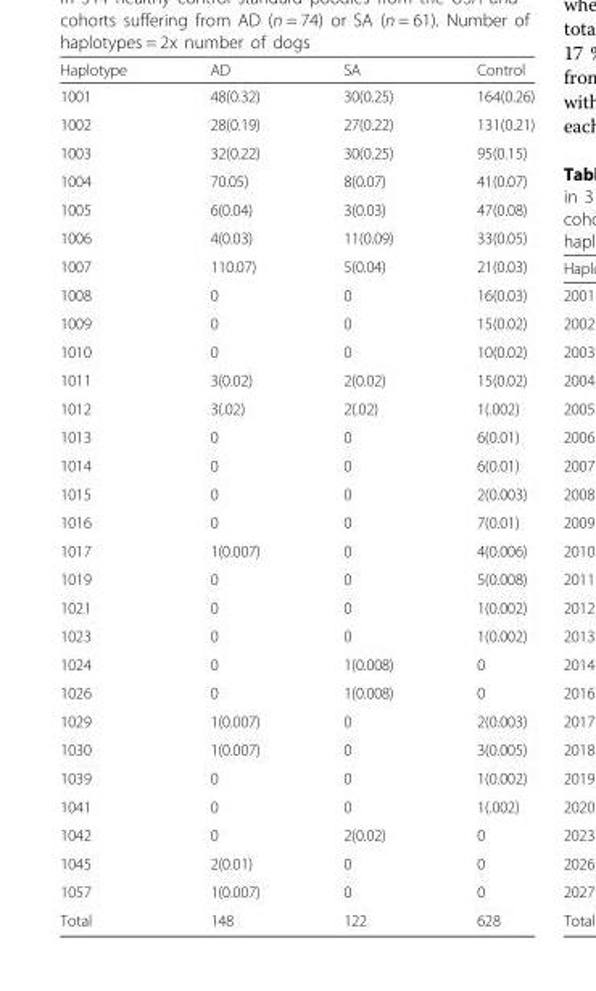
<table><thead><tr><td>Haplotype</td><td>AD</td><td>SA</td><td>Control</td></tr></thead><tbody><tr><td>1001</td><td>48(0.32)</td><td>30(0.25)</td><td>164(0.26)</td></tr><tr><td>1002</td><td>28(0.19)</td><td>27(0.22)</td><td>131(0.21)</td></tr><tr><td>1003</td><td>32(0.22)</td><td>30(0.25)</td><td>95(0.15)</td></tr><tr><td>1004</td><td>70.05)</td><td>8(0.07)</td><td>41(0.07)</td></tr><tr><td>1005</td><td>6(0.04)</td><td>3(0.03)</td><td>47(0.08)</td></tr><tr><td>1006</td><td>4(0.03)</td><td>11(0.09)</td><td>33(0.05)</td></tr><tr><td>1007</td><td>110.07)</td><td>5(0.04)</td><td>21(0.03)</td></tr><tr><td>1008</td><td>0</td><td>0</td><td>16(0.03)</td></tr><tr><td>1009</td><td>0</td><td>0</td><td>15(0.02)</td></tr><tr><td>1010</td><td>0</td><td>0</td><td>10(0.02)</td></tr><tr><td>1011</td><td>3(0.02)</td><td>2(0.02)</td><td>15(0.02)</td></tr><tr><td>1012</td><td>3(.02)</td><td>2(.02)</td><td>1(.002)</td></tr><tr><td>1013</td><td>0</td><td>0</td><td>6(0.01)</td></tr><tr><td>1014</td><td>0</td><td>0</td><td>6(0.01)</td></tr><tr><td>1015</td><td>0</td><td>0</td><td>2(0.003)</td></tr><tr><td>1016</td><td>0</td><td>0</td><td>7(0.01)</td></tr><tr><td>1017</td><td>1(0.007)</td><td>0</td><td>4(0.006)</td></tr><tr><td>1019</td><td>0</td><td>0</td><td>5(0.008)</td></tr><tr><td>1021</td><td>0</td><td>0</td><td>1(0.002)</td></tr><tr><td>1023</td><td>0</td><td>0</td><td>1(0.002)</td></tr><tr><td>1024</td><td>0</td><td>1(0.008)</td><td>0</td></tr><tr><td>1026</td><td>0</td><td>1(0.008)</td><td>0</td></tr><tr><td>1029</td><td>1(0.007)</td><td>0</td><td>2(0.003)</td></tr><tr><td>1030</td><td>1(0.007)</td><td>0</td><td>3(0.005)</td></tr><tr><td>1039</td><td>0</td><td>0</td><td>1(0.002)</td></tr><tr><td>1041</td><td>0</td><td>0</td><td>1(.002)</td></tr><tr><td>1042</td><td>0</td><td>2(0.02)</td><td>0</td></tr><tr><td>1045</td><td>2(0.01)</td><td>0</td><td>0</td></tr><tr><td>1057</td><td>1(0.007)</td><td>0</td><td>0</td></tr><tr><td>Total</td><td>148</td><td>122</td><td>628</td></tr></tbody></table>